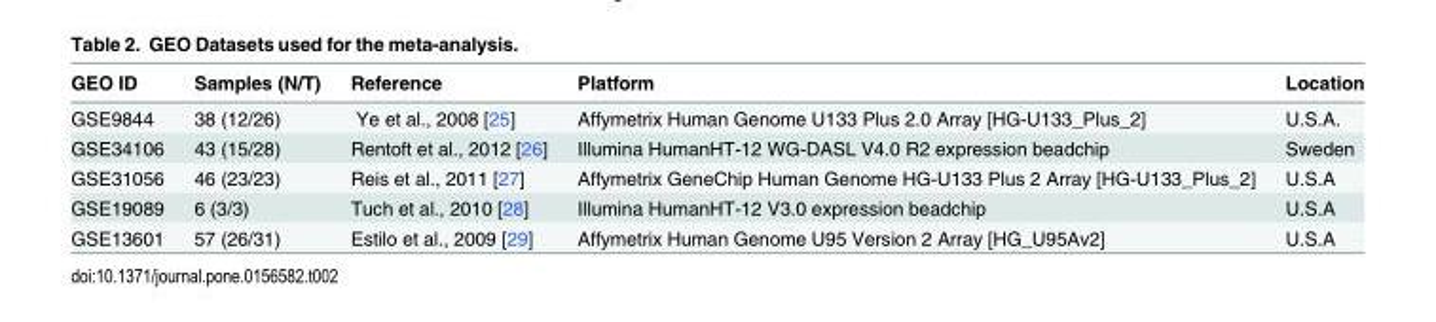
<table><thead><tr><td>GEO ID</td><td>Samples (N/T)</td><td>Reference</td><td>Platform</td><td>Location</td></tr></thead><tbody><tr><td>GSE9844</td><td>38 (12/26)</td><td>Ye et al., 2008 [25]</td><td>Affymetrix Human Genome U133 Plus 2.0 Array [HG-U133_Plus_2]</td><td>U.S.A.</td></tr><tr><td>GSE34106</td><td>43 (15/28)</td><td>Rentoft et al., 2012 [26]</td><td>Illumina HumanHT-12 WG-DASL V4.0 R2 expression beadchip</td><td>Sweden</td></tr><tr><td>GSE31056</td><td>46 (23/23)</td><td>Reis et al., 2011 [27]</td><td>Affymetrix GeneChip Human Genome HG-U133 Plus 2 Array [HG-U133_Plus_2]</td><td>U.S.A</td></tr><tr><td>GSE19089</td><td>6 (3/3)</td><td>Tuch et al., 2010 [28]</td><td>Illumina HumanHT-12 V3.0 expression beadchip</td><td>U.S.A</td></tr><tr><td>GSE13601</td><td>57 (26/31)</td><td>Estilo et al., 2009 [29]</td><td>Affymetrix Human Genome U95 Version 2 Array [HG_U95Av2]</td><td>U.S.A</td></tr></tbody></table>